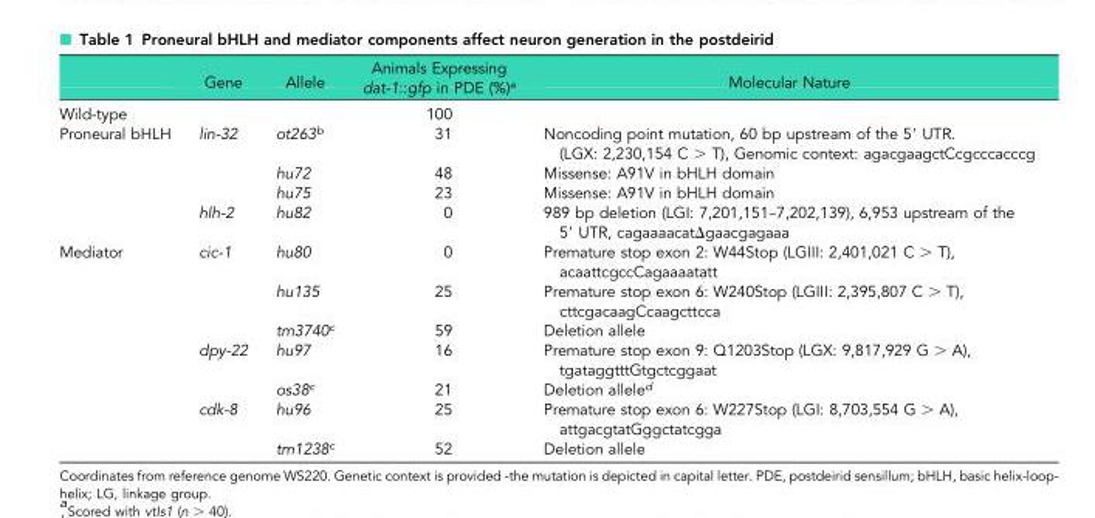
<table><thead><tr><td></td><td>Gene</td><td>Allele</td><td>Animals Expressing dat-1::gfp in PDE (%)<sup>a</sup></td><td>Molecular Nature</td></tr></thead><tbody><tr><td>Wild-type</td><td></td><td></td><td>100</td><td></td></tr><tr><td rowspan="4">Proneural bHLH</td><td rowspan="3">lin-32</td><td>ot263<sup>b</sup></td><td>31</td><td>Noncoding point mutation, 60 bp upstream of the 5′ UTR. (LGX: 2,230,154 C &gt; T), Genomic context: agacgaagctCcgcccacccg</td></tr><tr><td>hu72</td><td>48</td><td>Missense: A91V in bHLH domain</td></tr><tr><td>hu75</td><td>23</td><td>Missense: A91V in bHLH domain</td></tr><tr><td>hlh-2</td><td>hu82</td><td>0</td><td>989 bp deletion (LGI: 7,201,151–7,202,139), 6,953 upstream of the 5′ UTR, cagaaaacatΔgaacgagaaa</td></tr><tr><td rowspan="7">Mediator</td><td rowspan="3">cic-1</td><td>hu80</td><td>0</td><td>Premature stop exon 2: W44Stop (LGIII: 2,401,021 C &gt; T), acaattcgccCagaaaatatt</td></tr><tr><td>hu135</td><td>25</td><td>Premature stop exon 6: W240Stop (LGIII: 2,395,807 C &gt; T), cttcgacaagCcaagcttcca</td></tr><tr><td>tm3740<sup>c</sup></td><td>59</td><td>Deletion allele</td></tr><tr><td rowspan="2">dpy-22</td><td>hu97</td><td>16</td><td>Premature stop exon 9: Q1203Stop (LGX: 9,817,929 G &gt; A), tgataggtttGtgctcggaat</td></tr><tr><td>os38<sup>c</sup></td><td>21</td><td>Deletion allele<sup>d</sup></td></tr><tr><td rowspan="2">cdk-8</td><td>hu96</td><td>25</td><td>Premature stop exon 6: W227Stop (LGI: 8,703,554 G &gt; A), attgacgtatGggctatcgga</td></tr><tr><td>tm1238<sup>c</sup></td><td>52</td><td>Deletion allele</td></tr></tbody></table>